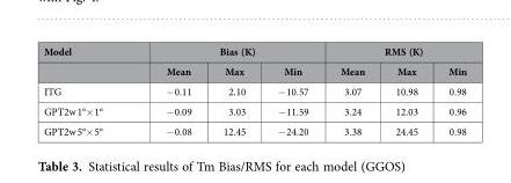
<table><thead><tr><td rowspan="2">Model</td><td colspan="3">Bias (K)</td><td colspan="3">RMS (K)</td></tr><tr><td>Mean</td><td>Max</td><td>Min</td><td>Mean</td><td>Max</td><td>Min</td></tr></thead><tbody><tr><td>ITG</td><td>− 0.11</td><td>2.10</td><td>− 10.57</td><td>3.07</td><td>10.98</td><td>0.98</td></tr><tr><td>GPT2w 1°× 1°</td><td>− 0.09</td><td>3.03</td><td>− 11.59</td><td>3.24</td><td>12.03</td><td>0.96</td></tr><tr><td>GPT2w 5°× 5°</td><td>− 0.08</td><td>12.45</td><td>− 24.20</td><td>3.38</td><td>24.45</td><td>0.98</td></tr></tbody></table>